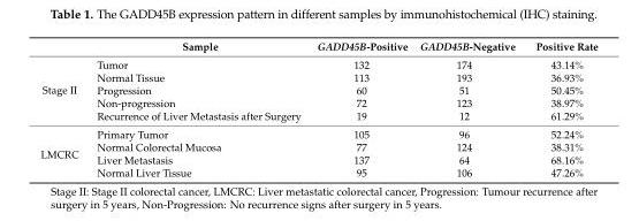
<table><thead><tr><td></td><td>Sample</td><td>GADD45B-Positive</td><td>GADD45B-Negative</td><td>Positive Rate</td></tr></thead><tbody><tr><td rowspan="5">Stage II</td><td>Tumor</td><td>132</td><td>174</td><td>43.14%</td></tr><tr><td>Normal Tissue</td><td>113</td><td>193</td><td>36.93%</td></tr><tr><td>Progression</td><td>60</td><td>51</td><td>50.45%</td></tr><tr><td>Non-progression</td><td>72</td><td>123</td><td>38.97%</td></tr><tr><td>Recurrence of Liver Metastasis after Surgery</td><td>19</td><td>12</td><td>61.29%</td></tr><tr><td rowspan="4">LMCRC</td><td>Primary Tumor</td><td>105</td><td>96</td><td>52.24%</td></tr><tr><td>Normal Colorectal Mucosa</td><td>77</td><td>124</td><td>38.31%</td></tr><tr><td>Liver Metastasis</td><td>137</td><td>64</td><td>68.16%</td></tr><tr><td>Normal Liver Tissue</td><td>95</td><td>106</td><td>47.26%</td></tr></tbody></table>